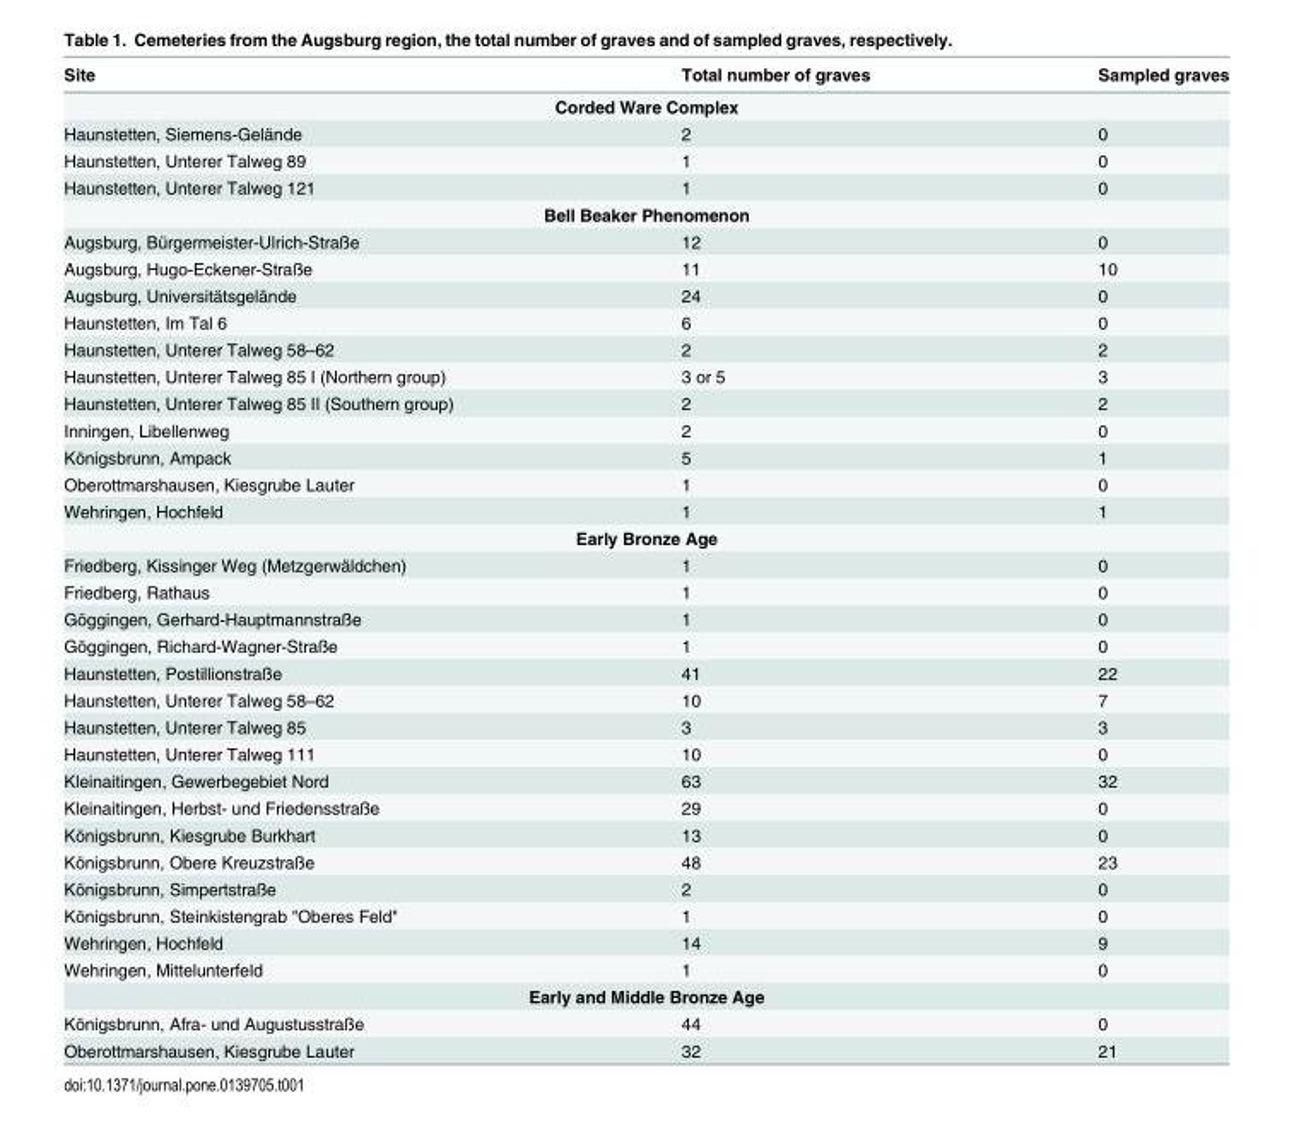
<table><thead><tr><td>Site</td><td>Total number of graves</td><td>Sampled graves</td></tr></thead><tbody><tr><td colspan="3">Corded Ware Complex</td></tr><tr><td>Haunstetten, Siemens-Gelände</td><td>2</td><td>0</td></tr><tr><td>Haunstetten, Unterer Talweg 89</td><td>1</td><td>0</td></tr><tr><td>Haunstetten, Unterer Talweg 121</td><td>1</td><td>0</td></tr><tr><td colspan="3">Bell Beaker Phenomenon</td></tr><tr><td>Augsburg, Bürgermeister-Ulrich-Straße</td><td>12</td><td>0</td></tr><tr><td>Augsburg, Hugo-Eckener-Straße</td><td>11</td><td>10</td></tr><tr><td>Augsburg, Universitätsgelände</td><td>24</td><td>0</td></tr><tr><td>Haunstetten, Im Tal 6</td><td>6</td><td>0</td></tr><tr><td>Haunstetten, Unterer Talweg 58–62</td><td>2</td><td>2</td></tr><tr><td>Haunstetten, Unterer Talweg 85 I (Northern group)</td><td>3 or 5</td><td>3</td></tr><tr><td>Haunstetten, Unterer Talweg 85 II (Southern group)</td><td>2</td><td>2</td></tr><tr><td>Inningen, Libellenweg</td><td>2</td><td>0</td></tr><tr><td>Königsbrunn, Ampack</td><td>5</td><td>1</td></tr><tr><td>Oberottmarshausen, Kiesgrube Lauter</td><td>1</td><td>0</td></tr><tr><td>Wehringen, Hochfeld</td><td>1</td><td>1</td></tr><tr><td colspan="3">Early Bronze Age</td></tr><tr><td>Friedberg, Kissinger Weg (Metzgerwäldchen)</td><td>1</td><td>0</td></tr><tr><td>Friedberg, Rathaus</td><td>1</td><td>0</td></tr><tr><td>Göggingen, Gerhard-Hauptmannstraße</td><td>1</td><td>0</td></tr><tr><td>Göggingen, Richard-Wagner-Straße</td><td>1</td><td>0</td></tr><tr><td>Haunstetten, Postillionstraße</td><td>41</td><td>22</td></tr><tr><td>Haunstetten, Unterer Talweg 58–62</td><td>10</td><td>7</td></tr><tr><td>Haunstetten, Unterer Talweg 85</td><td>3</td><td>3</td></tr><tr><td>Haunstetten, Unterer Talweg 111</td><td>10</td><td>0</td></tr><tr><td>Kleinaitingen, Gewerbegebiet Nord</td><td>63</td><td>32</td></tr><tr><td>Kleinaitingen, Herbst- und Friedensstraße</td><td>29</td><td>0</td></tr><tr><td>Königsbrunn, Kiesgrube Burkhart</td><td>13</td><td>0</td></tr><tr><td>Königsbrunn, Obere Kreuzstraße</td><td>48</td><td>23</td></tr><tr><td>Königsbrunn, Simpertstraße</td><td>2</td><td>0</td></tr><tr><td>Königsbrunn, Steinkistengrab &quot;Oberes Feld&quot;</td><td>1</td><td>0</td></tr><tr><td>Wehringen, Hochfeld</td><td>14</td><td>9</td></tr><tr><td>Wehringen, Mittelunterfeld</td><td>1</td><td>0</td></tr><tr><td colspan="3">Early and Middle Bronze Age</td></tr><tr><td>Königsbrunn, Afra- und Augustusstraße</td><td>44</td><td>0</td></tr><tr><td>Oberottmarshausen, Kiesgrube Lauter</td><td>32</td><td>21</td></tr></tbody></table>